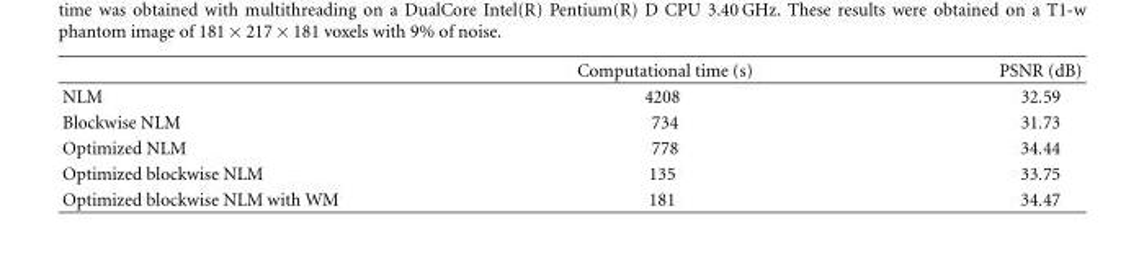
<table><thead><tr><td></td><td>Computational time (s)</td><td>PSNR (dB)</td></tr></thead><tbody><tr><td>NLM</td><td>4208</td><td>32.59</td></tr><tr><td>Blockwise NLM</td><td>734</td><td>31.73</td></tr><tr><td>Optimized NLM</td><td>778</td><td>34.44</td></tr><tr><td>Optimized blockwise NLM</td><td>135</td><td>33.75</td></tr><tr><td>Optimized blockwise NLM with WM</td><td>181</td><td>34.47</td></tr></tbody></table>